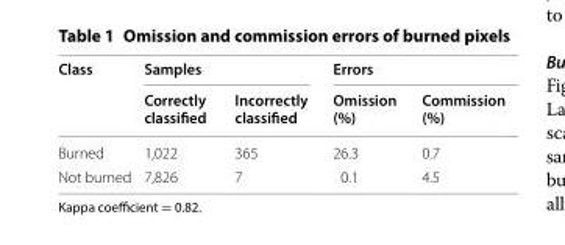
<table><thead><tr><td rowspan="2">Class</td><td colspan="2">Samples</td><td colspan="2">Errors</td></tr><tr><td>Correctly classified</td><td>Incorrectly classified</td><td>Omission (%)</td><td>Commission (%)</td></tr></thead><tbody><tr><td>Burned</td><td>1,022</td><td>365</td><td>26.3</td><td>0.7</td></tr><tr><td>Not burned</td><td>7,826</td><td>7</td><td>0.1</td><td>4.5</td></tr></tbody></table>